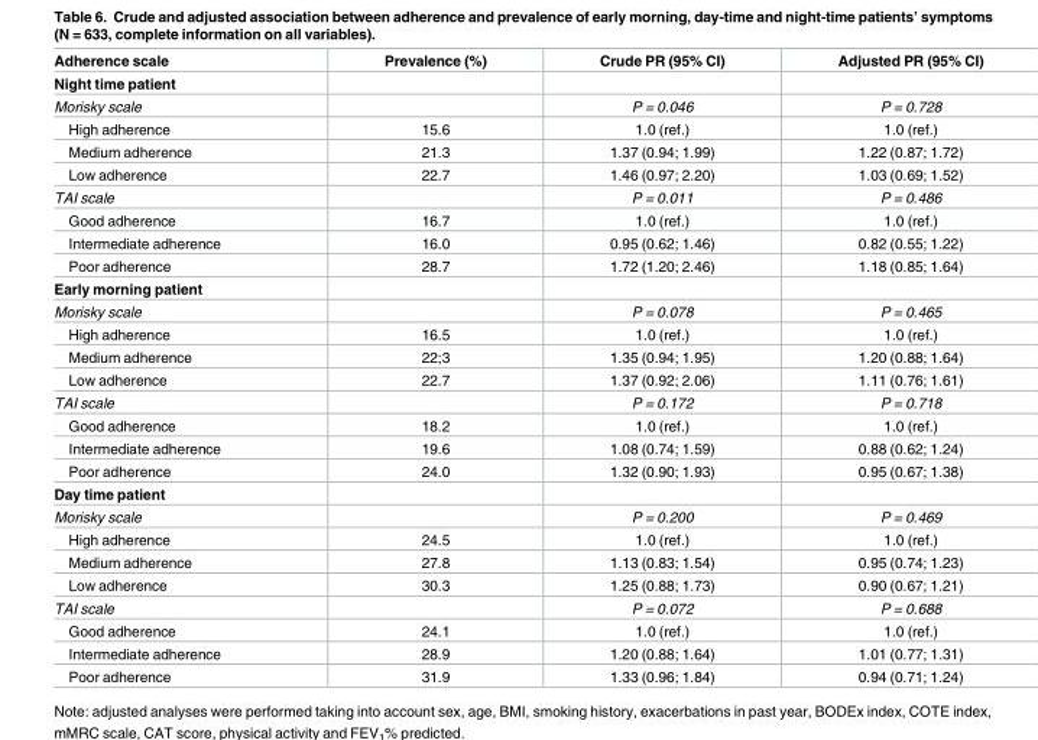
<table><thead><tr><td>Adherence scale</td><td>Prevalence (%)</td><td>Crude PR (95% CI)</td><td>Adjusted PR (95% CI)</td></tr></thead><tbody><tr><td colspan="4">Night time patient</td></tr><tr><td>Morisky scale</td><td></td><td>P = 0.046</td><td>P = 0.728</td></tr><tr><td>High adherence</td><td>15.6</td><td>1.0 (ref.)</td><td>1.0 (ref.)</td></tr><tr><td>Medium adherence</td><td>21.3</td><td>1.37 (0.94; 1.99)</td><td>1.22 (0.87; 1.72)</td></tr><tr><td>Low adherence</td><td>22.7</td><td>1.46 (0.97; 2.20)</td><td>1.03 (0.69; 1.52)</td></tr><tr><td>TAI scale</td><td></td><td>P = 0.011</td><td>P = 0.486</td></tr><tr><td>Good adherence</td><td>16.7</td><td>1.0 (ref.)</td><td>1.0 (ref.)</td></tr><tr><td>Intermediate adherence</td><td>16.0</td><td>0.95 (0.62; 1.46)</td><td>0.82 (0.55; 1.22)</td></tr><tr><td>Poor adherence</td><td>28.7</td><td>1.72 (1.20; 2.46)</td><td>1.18 (0.85; 1.64)</td></tr><tr><td colspan="4">Early morning patient</td></tr><tr><td>Morisky scale</td><td></td><td>P = 0.078</td><td>P = 0.465</td></tr><tr><td>High adherence</td><td>16.5</td><td>1.0 (ref.)</td><td>1.0 (ref.)</td></tr><tr><td>Medium adherence</td><td>22;3</td><td>1.35 (0.94; 1.95)</td><td>1.20 (0.88; 1.64)</td></tr><tr><td>Low adherence</td><td>22.7</td><td>1.37 (0.92; 2.06)</td><td>1.11 (0.76; 1.61)</td></tr><tr><td>TAI scale</td><td></td><td>P = 0.172</td><td>P = 0.718</td></tr><tr><td>Good adherence</td><td>18.2</td><td>1.0 (ref.)</td><td>1.0 (ref.)</td></tr><tr><td>Intermediate adherence</td><td>19.6</td><td>1.08 (0.74; 1.59)</td><td>0.88 (0.62; 1.24)</td></tr><tr><td>Poor adherence</td><td>24.0</td><td>1.32 (0.90; 1.93)</td><td>0.95 (0.67; 1.38)</td></tr><tr><td colspan="4">Day time patient</td></tr><tr><td>Morisky scale</td><td></td><td>P = 0.200</td><td>P = 0.469</td></tr><tr><td>High adherence</td><td>24.5</td><td>1.0 (ref.)</td><td>1.0 (ref.)</td></tr><tr><td>Medium adherence</td><td>27.8</td><td>1.13 (0.83; 1.54)</td><td>0.95 (0.74; 1.23)</td></tr><tr><td>Low adherence</td><td>30.3</td><td>1.25 (0.88; 1.73)</td><td>0.90 (0.67; 1.21)</td></tr><tr><td>TAI scale</td><td></td><td>P = 0.072</td><td>P = 0.688</td></tr><tr><td>Good adherence</td><td>24.1</td><td>1.0 (ref.)</td><td>1.0 (ref.)</td></tr><tr><td>Intermediate adherence</td><td>28.9</td><td>1.20 (0.88; 1.64)</td><td>1.01 (0.77; 1.31)</td></tr><tr><td>Poor adherence</td><td>31.9</td><td>1.33 (0.96; 1.84)</td><td>0.94 (0.71; 1.24)</td></tr></tbody></table>